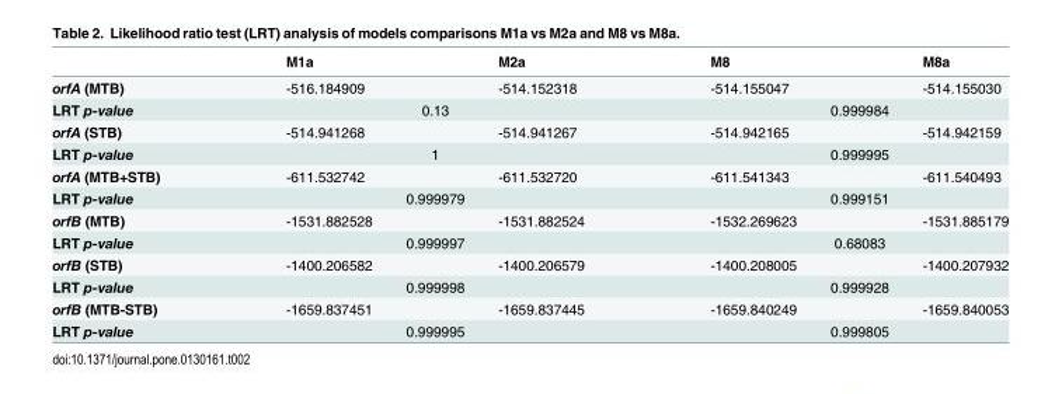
<table><thead><tr><td></td><td>M1a</td><td>M2a</td><td>M8</td><td>M8a</td></tr></thead><tbody><tr><td>orfA (MTB)</td><td>-516.184909</td><td>-514.152318</td><td>-514.155047</td><td>-514.155030</td></tr><tr><td>LRT p-value</td><td colspan="2">0.13</td><td colspan="2">0.999984</td></tr><tr><td>orfA (STB)</td><td>-514.941268</td><td>-514.941267</td><td>-514.942165</td><td>-514.942159</td></tr><tr><td>LRT p-value</td><td colspan="2">1</td><td colspan="2">0.999995</td></tr><tr><td>orfA (MTB+STB)</td><td>-611.532742</td><td>-611.532720</td><td>-611.541343</td><td>-611.540493</td></tr><tr><td>LRT p-value</td><td colspan="2">0.999979</td><td colspan="2">0.999151</td></tr><tr><td>orfB (MTB)</td><td>-1531.882528</td><td>-1531.882524</td><td>-1532.269623</td><td>-1531.885179</td></tr><tr><td>LRT p-value</td><td colspan="2">0.999997</td><td colspan="2">0.68083</td></tr><tr><td>orfB (STB)</td><td>-1400.206582</td><td>-1400.206579</td><td>-1400.208005</td><td>-1400.207932</td></tr><tr><td>LRT p-value</td><td colspan="2">0.999998</td><td colspan="2">0.999928</td></tr><tr><td>orfB (MTB-STB)</td><td>-1659.837451</td><td>-1659.837445</td><td>-1659.840249</td><td>-1659.840053</td></tr><tr><td>LRT p-value</td><td colspan="2">0.999995</td><td colspan="2">0.999805</td></tr></tbody></table>